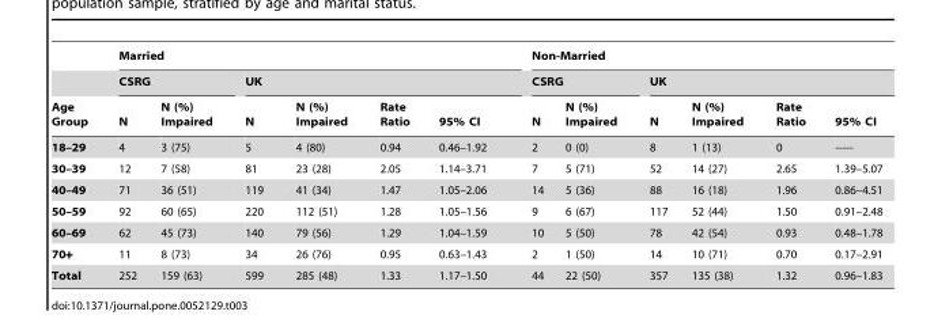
<table><thead><tr><td rowspan="3">Age Group</td><td colspan="6">Married</td><td colspan="6">Non-Married</td></tr><tr><td colspan="2">CSRG</td><td colspan="4">UK</td><td colspan="2">CSRG</td><td colspan="4">UK</td></tr><tr><td>N</td><td>N (%) Impaired</td><td>N</td><td>N (%) Impaired</td><td>Rate Ratio</td><td>95% CI</td><td>N</td><td>N (%) Impaired</td><td>N</td><td>N (%) Impaired</td><td>Rate Ratio</td><td>95% CI</td></tr></thead><tbody><tr><td>18–29</td><td>4</td><td>3 (75)</td><td>5</td><td>4 (80)</td><td>0.94</td><td>0.46–1.92</td><td>2</td><td>0 (0)</td><td>8</td><td>1 (13)</td><td>0</td><td>-----</td></tr><tr><td>30–39</td><td>12</td><td>7 (58)</td><td>81</td><td>23 (28)</td><td>2.05</td><td>1.14–3.71</td><td>7</td><td>5 (71)</td><td>52</td><td>14 (27)</td><td>2.65</td><td>1.39–5.07</td></tr><tr><td>40–49</td><td>71</td><td>36 (51)</td><td>119</td><td>41 (34)</td><td>1.47</td><td>1.05–2.06</td><td>14</td><td>5 (36)</td><td>88</td><td>16 (18)</td><td>1.96</td><td>0.86–4.51</td></tr><tr><td>50–59</td><td>92</td><td>60 (65)</td><td>220</td><td>112 (51)</td><td>1.28</td><td>1.05–1.56</td><td>9</td><td>6 (67)</td><td>117</td><td>52 (44)</td><td>1.50</td><td>0.91–2.48</td></tr><tr><td>60–69</td><td>62</td><td>45 (73)</td><td>140</td><td>79 (56)</td><td>1.29</td><td>1.04–1.59</td><td>10</td><td>5 (50)</td><td>78</td><td>42 (54)</td><td>0.93</td><td>0.48–1.78</td></tr><tr><td>70+</td><td>11</td><td>8 (73)</td><td>34</td><td>26 (76)</td><td>0.95</td><td>0.63–1.43</td><td>2</td><td>1 (50)</td><td>14</td><td>10 (71)</td><td>0.70</td><td>0.17–2.91</td></tr><tr><td>Total</td><td>252</td><td>159 (63)</td><td>599</td><td>285 (48)</td><td>1.33</td><td>1.17–1.50</td><td>44</td><td>22 (50)</td><td>357</td><td>135 (38)</td><td>1.32</td><td>0.96–1.83</td></tr></tbody></table>